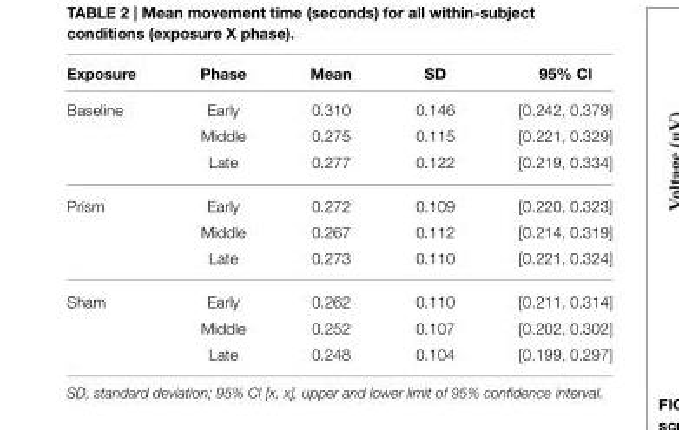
<table><thead><tr><td>Exposure</td><td>Phase</td><td>Mean</td><td>SD</td><td>95% CI</td></tr></thead><tbody><tr><td rowspan="3">Baseline</td><td>Early</td><td>0.310</td><td>0.146</td><td>[0.242, 0.379]</td></tr><tr><td>Middle</td><td>0.275</td><td>0.115</td><td>[0.221, 0.329]</td></tr><tr><td>Late</td><td>0.277</td><td>0.122</td><td>[0.219, 0.334]</td></tr><tr><td rowspan="3">Prism</td><td>Early</td><td>0.272</td><td>0.109</td><td>[0.220, 0.323]</td></tr><tr><td>Middle</td><td>0.267</td><td>0.112</td><td>[0.214, 0.319]</td></tr><tr><td>Late</td><td>0.273</td><td>0.110</td><td>[0.221, 0.324]</td></tr><tr><td rowspan="3">Sham</td><td>Early</td><td>0.262</td><td>0.110</td><td>[0.211, 0.314]</td></tr><tr><td>Middle</td><td>0.252</td><td>0.107</td><td>[0.202, 0.302]</td></tr><tr><td>Late</td><td>0.248</td><td>0.104</td><td>[0.199, 0.297]</td></tr></tbody></table>